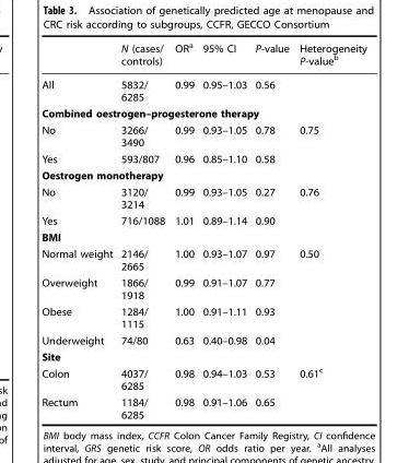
<table><thead><tr><td></td><td>N (cases/ controls)</td><td>OR<sup>a</sup></td><td>95% CI</td><td>P-value</td><td>Heterogeneity P-value<sup>b</sup></td></tr></thead><tbody><tr><td>All</td><td>5832/ 6285</td><td>0.99</td><td>0.95–1.03</td><td>0.56</td><td></td></tr><tr><td colspan="6">Combined oestrogen–progesterone therapy</td></tr><tr><td>No</td><td>3266/ 3490</td><td>0.99</td><td>0.93–1.05</td><td>0.78</td><td>0.75</td></tr><tr><td>Yes</td><td>593/807</td><td>0.96</td><td>0.85–1.10</td><td>0.58</td><td></td></tr><tr><td colspan="6">Oestrogen monotherapy</td></tr><tr><td>No</td><td>3120/ 3214</td><td>0.99</td><td>0.93–1.05</td><td>0.27</td><td>0.76</td></tr><tr><td>Yes</td><td>716/1088</td><td>1.01</td><td>0.89–1.14</td><td>0.90</td><td></td></tr><tr><td colspan="6">BMI</td></tr><tr><td>Normal weight</td><td>2146/ 2665</td><td>1.00</td><td>0.93–1.07</td><td>0.97</td><td>0.50</td></tr><tr><td>Overweight</td><td>1866/ 1918</td><td>0.99</td><td>0.91–1.07</td><td>0.77</td><td></td></tr><tr><td>Obese</td><td>1284/ 1115</td><td>1.00</td><td>0.91–1.11</td><td>0.93</td><td></td></tr><tr><td>Underweight</td><td>74/80</td><td>0.63</td><td>0.40–0.98</td><td>0.04</td><td></td></tr><tr><td colspan="6">Site</td></tr><tr><td>Colon</td><td>4037/ 6285</td><td>0.98</td><td>0.94–1.03</td><td>0.53</td><td>0.61<sup>c</sup></td></tr><tr><td>Rectum</td><td>1184/ 6285</td><td>0.98</td><td>0.91–1.06</td><td>0.65</td><td></td></tr></tbody></table>